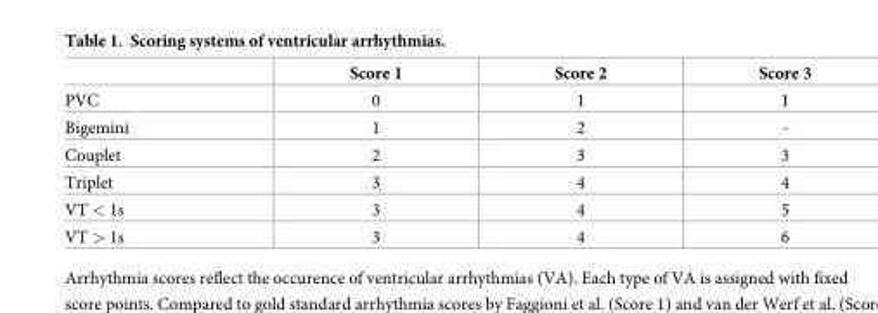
<table><thead><tr><td></td><td>Score 1</td><td>Score 2</td><td>Score 3</td></tr></thead><tbody><tr><td>PVC</td><td>0</td><td>1</td><td>1</td></tr><tr><td>Bigemini</td><td>1</td><td>2</td><td>-</td></tr><tr><td>Couplet</td><td>2</td><td>3</td><td>3</td></tr><tr><td>Triplet</td><td>3</td><td>4</td><td>4</td></tr><tr><td>VT &lt; 1s</td><td>3</td><td>4</td><td>5</td></tr><tr><td>VT &gt; 1s</td><td>3</td><td>4</td><td>6</td></tr></tbody></table>